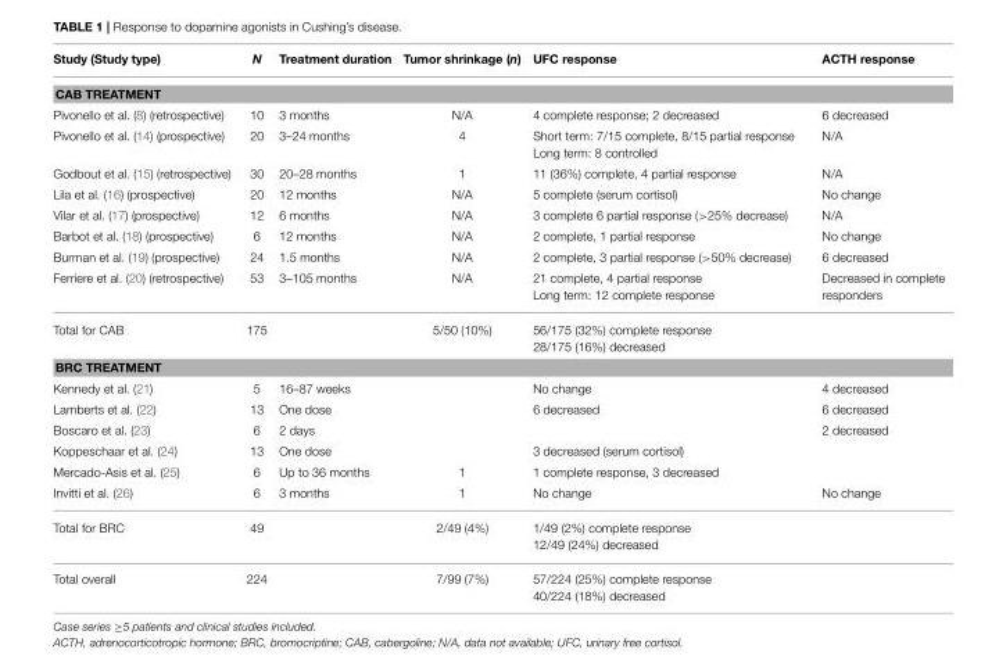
<table><thead><tr><td>Study (Study type)</td><td>N</td><td>Treatment duration</td><td>Tumor shrinkage (n)</td><td>UFC response</td><td>ACTH response</td></tr></thead><tbody><tr><td colspan="6">CAB TREATMENT</td></tr><tr><td>Pivonello et al. (8) (retrospective)</td><td>10</td><td>3 months</td><td>N/A</td><td>4 complete response; 2 decreased</td><td>6 decreased</td></tr><tr><td>Pivonello et al. (14) (prospective)</td><td>20</td><td>3–24 months</td><td>4</td><td>Short term: 7/15 complete, 8/15 partial response Long term: 8 controlled</td><td>N/A</td></tr><tr><td>Godbout et al. (15) (retrospective)</td><td>30</td><td>20–28 months</td><td>1</td><td>11 (36%) complete, 4 partial response</td><td>N/A</td></tr><tr><td>Lila et al. (16) (prospective)</td><td>20</td><td>12 months</td><td>N/A</td><td>5 complete (serum cortisol)</td><td>No change</td></tr><tr><td>Vilar et al. (17) (prospective)</td><td>12</td><td>6 months</td><td>N/A</td><td>3 complete 6 partial response (&gt;25% decrease)</td><td>N/A</td></tr><tr><td>Barbot et al. (18) (prospective)</td><td>6</td><td>12 months</td><td>N/A</td><td>2 complete, 1 partial response</td><td>No change</td></tr><tr><td>Burman et al. (19) (prospective)</td><td>24</td><td>1.5 months</td><td>N/A</td><td>2 complete, 3 partial response (&gt;50% decrease)</td><td>6 decreased</td></tr><tr><td>Ferriere et al. (20) (retrospective)</td><td>53</td><td>3–105 months</td><td>N/A</td><td>21 complete, 4 partial response Long term: 12 complete response</td><td>Decreased in complete responders</td></tr><tr><td>Total for CAB</td><td>175</td><td></td><td>5/50 (10%)</td><td>56/175 (32%) complete response 28/175 (16%) decreased</td><td></td></tr><tr><td colspan="6">BRC TREATMENT</td></tr><tr><td>Kennedy et al. (21)</td><td>5</td><td>16–87 weeks</td><td></td><td>No change</td><td>4 decreased</td></tr><tr><td>Lamberts et al. (22)</td><td>13</td><td>One dose</td><td></td><td>6 decreased</td><td>6 decreased</td></tr><tr><td>Boscaro et al. (23)</td><td>6</td><td>2 days</td><td></td><td></td><td>2 decreased</td></tr><tr><td>Koppeschaar et al. (24)</td><td>13</td><td>One dose</td><td></td><td>3 decreased (serum cortisol)</td><td></td></tr><tr><td>Mercado-Asis et al. (25)</td><td>6</td><td>Up to 36 months</td><td>1</td><td>1 complete response, 3 decreased</td><td></td></tr><tr><td>Invitti et al. (26)</td><td>6</td><td>3 months</td><td>1</td><td>No change</td><td>No change</td></tr><tr><td>Total for BRC</td><td>49</td><td></td><td>2/49 (4%)</td><td>1/49 (2%) complete response 12/49 (24%) decreased</td><td></td></tr><tr><td>Total overall</td><td>224</td><td></td><td>7/99 (7%)</td><td>57/224 (25%) complete response 40/224 (18%) decreased</td><td></td></tr></tbody></table>